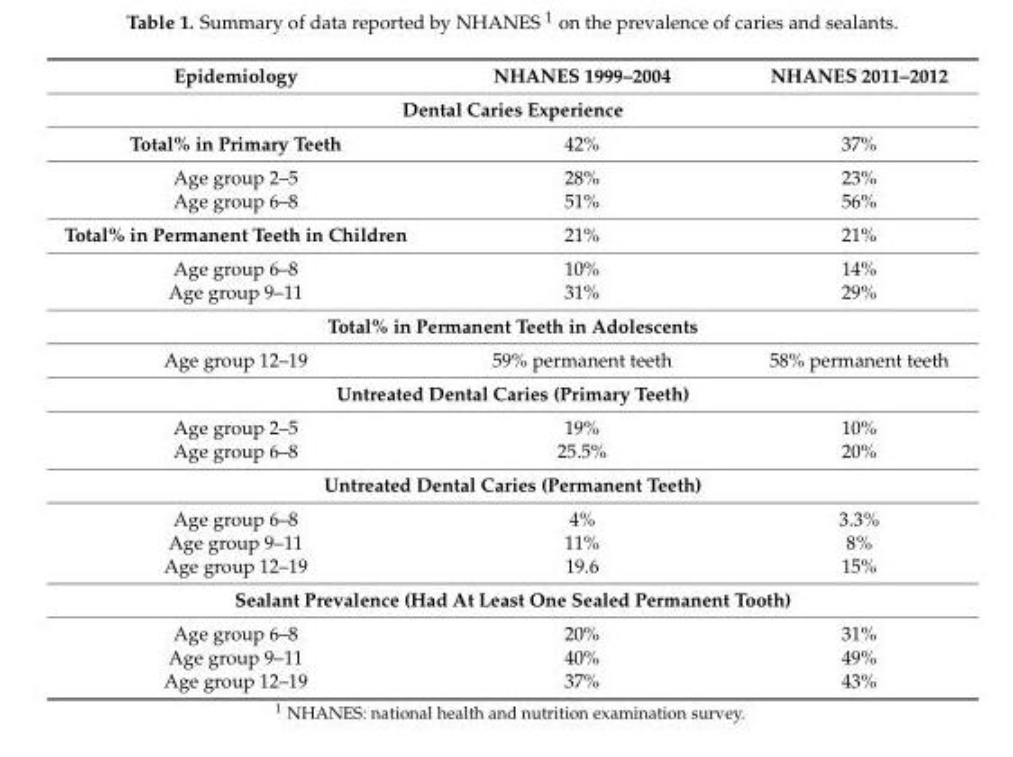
<table><thead><tr><td>Epidemiology</td><td>NHANES 1999–2004</td><td>NHANES 2011–2012</td></tr></thead><tbody><tr><td colspan="3">Dental Caries Experience</td></tr><tr><td>Total% in Primary Teeth</td><td>42%</td><td>37%</td></tr><tr><td>Age group 2–5</td><td>28%</td><td>23%</td></tr><tr><td>Age group 6–8</td><td>51%</td><td>56%</td></tr><tr><td>Total% in Permanent Teeth in Children</td><td>21%</td><td>21%</td></tr><tr><td>Age group 6–8</td><td>10%</td><td>14%</td></tr><tr><td>Age group 9–11</td><td>31%</td><td>29%</td></tr><tr><td colspan="3">Total% in Permanent Teeth in Adolescents</td></tr><tr><td>Age group 12–19</td><td>59% permanent teeth</td><td>58% permanent teeth</td></tr><tr><td colspan="3">Untreated Dental Caries (Primary Teeth)</td></tr><tr><td>Age group 2–5</td><td>19%</td><td>10%</td></tr><tr><td>Age group 6–8</td><td>25.5%</td><td>20%</td></tr><tr><td colspan="3">Untreated Dental Caries (Permanent Teeth)</td></tr><tr><td>Age group 6–8</td><td>4%</td><td>3.3%</td></tr><tr><td>Age group 9–11</td><td>11%</td><td>8%</td></tr><tr><td>Age group 12–19</td><td>19.6</td><td>15%</td></tr><tr><td colspan="3">Sealant Prevalence (Had At Least One Sealed Permanent Tooth)</td></tr><tr><td>Age group 6–8</td><td>20%</td><td>31%</td></tr><tr><td>Age group 9–11</td><td>40%</td><td>49%</td></tr><tr><td>Age group 12–19</td><td>37%</td><td>43%</td></tr></tbody></table>